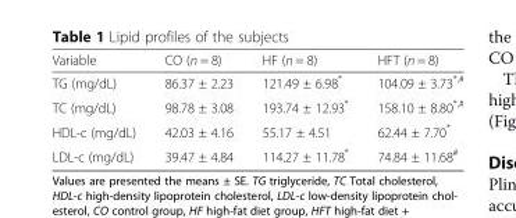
<table><thead><tr><td>Variable</td><td>CO (n = 8)</td><td>HF (n = 8)</td><td>HFT (n = 8)</td></tr></thead><tbody><tr><td>TG (mg/dL)</td><td>86.37 ± 2.23</td><td>121.49 ± 6.98*</td><td>104.09 ± 3.73<sup>*,#</sup></td></tr><tr><td>TC (mg/dL)</td><td>98.78 ± 3.08</td><td>193.74 ± 12.93*</td><td>158.10 ± 8.80<sup>*,#</sup></td></tr><tr><td>HDL-c (mg/dL)</td><td>42.03 ± 4.16</td><td>55.17 ± 4.51</td><td>62.44 ± 7.70*</td></tr><tr><td>LDL-c (mg/dL)</td><td>39.47 ± 4.84</td><td>114.27 ± 11.78*</td><td>74.84 ± 11.68<sup>#</sup></td></tr></tbody></table>